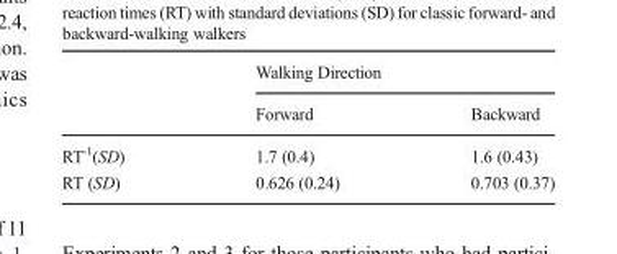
<table><thead><tr><td rowspan="2"></td><td colspan="2">Walking Direction</td></tr><tr><td>Forward</td><td>Backward</td></tr></thead><tbody><tr><td>RT<sup>-1</sup>(SD)</td><td>1.7 (0.4)</td><td>1.6 (0.43)</td></tr><tr><td>RT (SD)</td><td>0.626 (0.24)</td><td>0.703 (0.37)</td></tr></tbody></table>